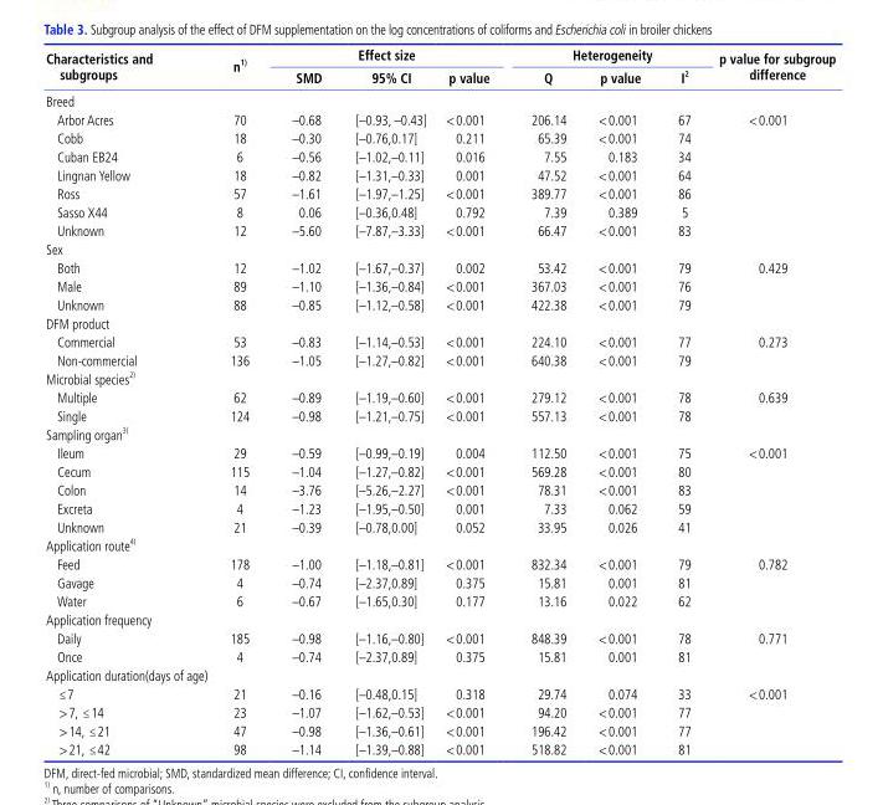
<table><thead><tr><td rowspan="2">Characteristics and subgroups</td><td rowspan="2">n 1)</td><td colspan="3">Effect size</td><td colspan="3">Heterogeneity</td><td rowspan="2">p value for subgroup difference</td></tr><tr><td>SMD</td><td>95% CI</td><td>p value</td><td>Q</td><td>p value</td><td>I <sup>2</sup></td></tr></thead><tbody><tr><td colspan="9">Breed</td></tr><tr><td>Arbor Acres</td><td>70</td><td>–0.68</td><td>[–0.93, –0.43]</td><td>&lt;0.001</td><td>206.14</td><td>&lt;0.001</td><td>67</td><td>&lt;0.001</td></tr><tr><td>Cobb</td><td>18</td><td>–0.30</td><td>[–0.76,0.17]</td><td>0.211</td><td>65.39</td><td>&lt;0.001</td><td>74</td><td></td></tr><tr><td>Cuban EB24</td><td>6</td><td>–0.56</td><td>[–1.02,–0.11]</td><td>0.016</td><td>7.55</td><td>0.183</td><td>34</td><td></td></tr><tr><td>Lingnan Yellow</td><td>18</td><td>–0.82</td><td>[–1.31,–0.33]</td><td>0.001</td><td>47.52</td><td>&lt;0.001</td><td>64</td><td></td></tr><tr><td>Ross</td><td>57</td><td>–1.61</td><td>[–1.97,–1.25]</td><td>&lt;0.001</td><td>389.77</td><td>&lt;0.001</td><td>86</td><td></td></tr><tr><td>Sasso X44</td><td>8</td><td>0.06</td><td>[–0.36,0.48]</td><td>0.792</td><td>7.39</td><td>0.389</td><td>5</td><td></td></tr><tr><td>Unknown</td><td>12</td><td>–5.60</td><td>[–7.87,–3.33]</td><td>&lt;0.001</td><td>66.47</td><td>&lt;0.001</td><td>83</td><td></td></tr><tr><td colspan="9">Sex</td></tr><tr><td>Both</td><td>12</td><td>–1.02</td><td>[–1.67,–0.37]</td><td>0.002</td><td>53.42</td><td>&lt;0.001</td><td>79</td><td>0.429</td></tr><tr><td>Male</td><td>89</td><td>–1.10</td><td>[–1.36,–0.84]</td><td>&lt;0.001</td><td>367.03</td><td>&lt;0.001</td><td>76</td><td></td></tr><tr><td>Unknown</td><td>88</td><td>–0.85</td><td>[–1.12,–0.58]</td><td>&lt;0.001</td><td>422.38</td><td>&lt;0.001</td><td>79</td><td></td></tr><tr><td colspan="9">DFM product</td></tr><tr><td>Commercial</td><td>53</td><td>–0.83</td><td>[–1.14,–0.53]</td><td>&lt;0.001</td><td>224.10</td><td>&lt;0.001</td><td>77</td><td>0.273</td></tr><tr><td>Non-commercial</td><td>136</td><td>–1.05</td><td>[–1.27,–0.82]</td><td>&lt;0.001</td><td>640.38</td><td>&lt;0.001</td><td>79</td><td></td></tr><tr><td colspan="9">Microbial species 2)</td></tr><tr><td>Multiple</td><td>62</td><td>–0.89</td><td>[–1.19,–0.60]</td><td>&lt;0.001</td><td>279.12</td><td>&lt;0.001</td><td>78</td><td>0.639</td></tr><tr><td>Single</td><td>124</td><td>–0.98</td><td>[–1.21,–0.75]</td><td>&lt;0.001</td><td>557.13</td><td>&lt;0.001</td><td>78</td><td></td></tr><tr><td colspan="9">Sampling organ 3)</td></tr><tr><td>Ileum</td><td>29</td><td>–0.59</td><td>[–0.99,–0.19]</td><td>0.004</td><td>112.50</td><td>&lt;0.001</td><td>75</td><td>&lt;0.001</td></tr><tr><td>Cecum</td><td>115</td><td>–1.04</td><td>[–1.27,–0.82]</td><td>&lt;0.001</td><td>569.28</td><td>&lt;0.001</td><td>80</td><td></td></tr><tr><td>Colon</td><td>14</td><td>–3.76</td><td>[–5.26,–2.27]</td><td>&lt;0.001</td><td>78.31</td><td>&lt;0.001</td><td>83</td><td></td></tr><tr><td>Excreta</td><td>4</td><td>–1.23</td><td>[–1.95,–0.50]</td><td>0.001</td><td>7.33</td><td>0.062</td><td>59</td><td></td></tr><tr><td>Unknown</td><td>21</td><td>–0.39</td><td>[–0.78,0.00]</td><td>0.052</td><td>33.95</td><td>0.026</td><td>41</td><td></td></tr><tr><td colspan="9">Application route 4)</td></tr><tr><td>Feed</td><td>178</td><td>–1.00</td><td>[–1.18,–0.81]</td><td>&lt;0.001</td><td>832.34</td><td>&lt;0.001</td><td>79</td><td>0.782</td></tr><tr><td>Gavage</td><td>4</td><td>–0.74</td><td>[–2.37,0.89]</td><td>0.375</td><td>15.81</td><td>0.001</td><td>81</td><td></td></tr><tr><td>Water</td><td>6</td><td>–0.67</td><td>[–1.65,0.30]</td><td>0.177</td><td>13.16</td><td>0.022</td><td>62</td><td></td></tr><tr><td colspan="9">Application frequency</td></tr><tr><td>Daily</td><td>185</td><td>–0.98</td><td>[–1.16,–0.80]</td><td>&lt;0.001</td><td>848.39</td><td>&lt;0.001</td><td>78</td><td>0.771</td></tr><tr><td>Once</td><td>4</td><td>–0.74</td><td>[–2.37,0.89]</td><td>0.375</td><td>15.81</td><td>0.001</td><td>81</td><td></td></tr><tr><td colspan="9">Application duration(days of age)</td></tr><tr><td>≤7</td><td>21</td><td>–0.16</td><td>[–0.48,0.15]</td><td>0.318</td><td>29.74</td><td>0.074</td><td>33</td><td>&lt;0.001</td></tr><tr><td>&gt;7, ≤14</td><td>23</td><td>–1.07</td><td>[–1.62,–0.53]</td><td>&lt;0.001</td><td>94.20</td><td>&lt;0.001</td><td>77</td><td></td></tr><tr><td>&gt;14, ≤21</td><td>47</td><td>–0.98</td><td>[–1.36,–0.61]</td><td>&lt;0.001</td><td>196.42</td><td>&lt;0.001</td><td>77</td><td></td></tr><tr><td>&gt;21, ≤42</td><td>98</td><td>–1.14</td><td>[–1.39,–0.88]</td><td>&lt;0.001</td><td>518.82</td><td>&lt;0.001</td><td>81</td><td></td></tr></tbody></table>